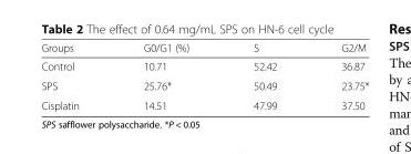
<table><thead><tr><td>Groups</td><td>G0/G1 (%)</td><td>S</td><td>G2/M</td></tr></thead><tbody><tr><td>Control</td><td>10.71</td><td>52.42</td><td>36.87</td></tr><tr><td>SPS</td><td>25.76*</td><td>50.49</td><td>23.75*</td></tr><tr><td>Cisplatin</td><td>14.51</td><td>47.99</td><td>37.50</td></tr></tbody></table>